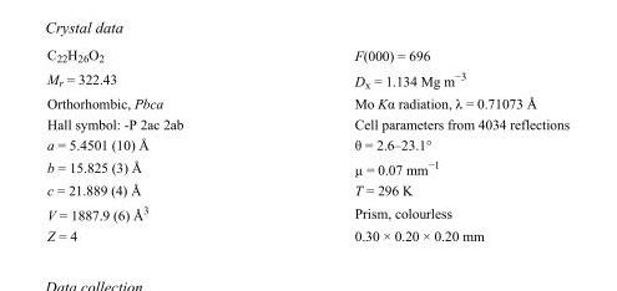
<table><tbody><tr><td>C<sub>22</sub>H<sub>26</sub>O<sub>2</sub></td><td>F(000) = 696</td></tr><tr><td>M<sub>r</sub> = 322.43</td><td>D<sub>x</sub> = 1.134 Mg m<sup>−3</sup></td></tr><tr><td>Orthorhombic, Pbca</td><td>Mo Kα radiation, λ = 0.71073 Å</td></tr><tr><td>Hall symbol: -P 2ac 2ab</td><td>Cell parameters from 4034 reflections</td></tr><tr><td>a = 5.4501 (10) Å</td><td>θ = 2.6–23.1°</td></tr><tr><td>b = 15.825 (3) Å</td><td>µ = 0.07 mm<sup>−1</sup></td></tr><tr><td>c = 21.889 (4) Å</td><td>T = 296 K</td></tr><tr><td>V = 1887.9 (6) Å<sup>3</sup></td><td>Prism, colourless</td></tr><tr><td>Z = 4</td><td>0.30 × 0.20 × 0.20 mm</td></tr></tbody></table>